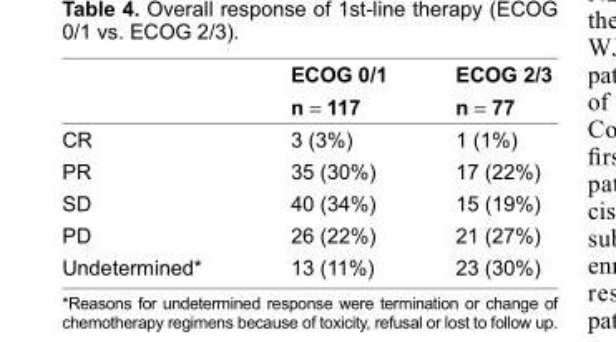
<table><thead><tr><td></td><td>ECOG 0/1 n = 117</td><td>ECOG 2/3 n = 77</td></tr></thead><tbody><tr><td>CR</td><td>3 (3%)</td><td>1 (1%)</td></tr><tr><td>PR</td><td>35 (30%)</td><td>17 (22%)</td></tr><tr><td>SD</td><td>40 (34%)</td><td>15 (19%)</td></tr><tr><td>PD</td><td>26 (22%)</td><td>21 (27%)</td></tr><tr><td>Undetermined*</td><td>13 (11%)</td><td>23 (30%)</td></tr></tbody></table>